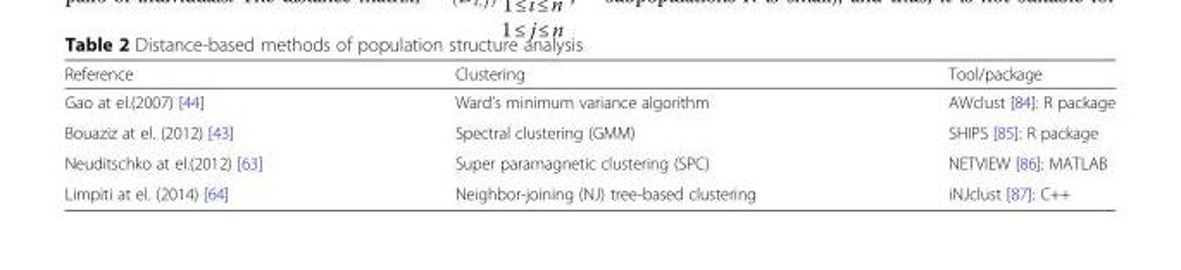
<table><thead><tr><td>Reference</td><td>Clustering</td><td>Tool/package</td></tr></thead><tbody><tr><td>Gao at el.(2007) [44]</td><td>Ward’s minimum variance algorithm</td><td>AWclust [84]: R package</td></tr><tr><td>Bouaziz at el. (2012) [43]</td><td>Spectral clustering (GMM)</td><td>SHIPS [85]: R package</td></tr><tr><td>Neuditschko at el.(2012) [63]</td><td>Super paramagnetic clustering (SPC)</td><td>NETVIEW [86]: MATLAB</td></tr><tr><td>Limpiti at el. (2014) [64]</td><td>Neighbor-joining (NJ) tree-based clustering</td><td>iNJclust [87]: C++</td></tr></tbody></table>